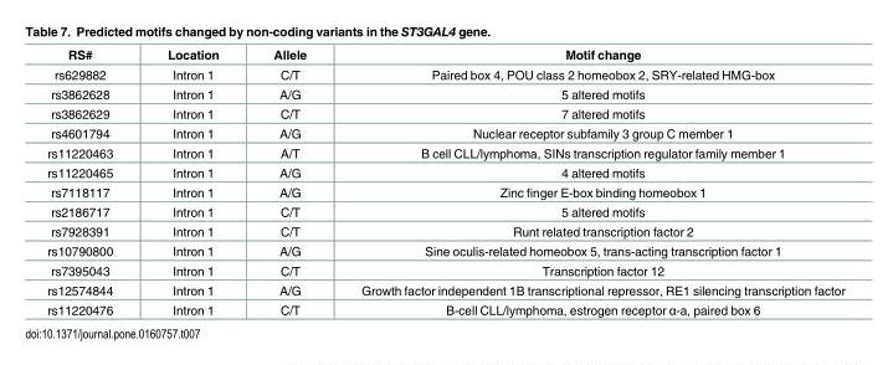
<table><thead><tr><td>RS#</td><td>Location</td><td>Allele</td><td>Motif change</td></tr></thead><tbody><tr><td>rs629882</td><td>Intron 1</td><td>C/T</td><td>Paired box 4, POU class 2 homeobox 2, SRY-related HMG-box</td></tr><tr><td>rs3862628</td><td>Intron 1</td><td>A/G</td><td>5 altered motifs</td></tr><tr><td>rs3862629</td><td>Intron 1</td><td>C/T</td><td>7 altered motifs</td></tr><tr><td>rs4601794</td><td>Intron 1</td><td>A/G</td><td>Nuclear receptor subfamily 3 group C member 1</td></tr><tr><td>rs11220463</td><td>Intron 1</td><td>A/T</td><td>B cell CLL/lymphoma, SINs transcription regulator family member 1</td></tr><tr><td>rs11220465</td><td>Intron 1</td><td>A/G</td><td>4 altered motifs</td></tr><tr><td>rs7118117</td><td>Intron 1</td><td>A/G</td><td>Zinc finger E-box binding homeobox 1</td></tr><tr><td>rs2186717</td><td>Intron 1</td><td>C/T</td><td>5 altered motifs</td></tr><tr><td>rs7928391</td><td>Intron 1</td><td>C/T</td><td>Runt related transcription factor 2</td></tr><tr><td>rs10790800</td><td>Intron 1</td><td>A/G</td><td>Sine oculis-related homeobox 5, trans-acting transcription factor 1</td></tr><tr><td>rs7395043</td><td>Intron 1</td><td>C/T</td><td>Transcription factor 12</td></tr><tr><td>rs12574844</td><td>Intron 1</td><td>A/G</td><td>Growth factor independent 1B transcriptional repressor, RE1 silencing transcription factor</td></tr><tr><td>rs11220476</td><td>Intron 1</td><td>C/T</td><td>B-cell CLL/lymphoma, estrogen receptor α-a, paired box 6</td></tr></tbody></table>